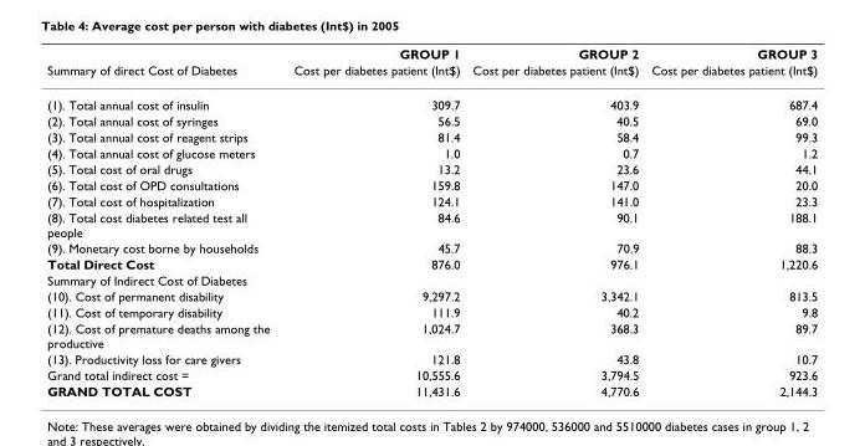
<table><thead><tr><td rowspan="2">Summary of direct Cost of Diabetes</td><td rowspan="2">GROUP 1 Cost per diabetes patient (Int$)</td><td rowspan="2">GROUP 2 Cost per diabetes patient (Int$)</td><td rowspan="2">GROUP 3 Cost per diabetes patient (Int$)</td></tr><tr></tr></thead><tbody><tr><td>(1). Total annual cost of insulin</td><td>309.7</td><td>403.9</td><td>687.4</td></tr><tr><td>(2). Total annual cost of syringes</td><td>56.5</td><td>40.5</td><td>69.0</td></tr><tr><td>(3). Total annual cost of reagent strips</td><td>81.4</td><td>58.4</td><td>99.3</td></tr><tr><td>(4). Total annual cost of glucose meters</td><td>1.0</td><td>0.7</td><td>1.2</td></tr><tr><td>(5). Total cost of oral drugs</td><td>13.2</td><td>23.6</td><td>44.1</td></tr><tr><td>(6). Total cost of OPD consultations</td><td>159.8</td><td>147.0</td><td>20.0</td></tr><tr><td>(7). Total cost of hospitalization</td><td>124.1</td><td>141.0</td><td>23.3</td></tr><tr><td>(8). Total cost diabetes related test all people</td><td>84.6</td><td>90.1</td><td>188.1</td></tr><tr><td>(9). Monetary cost borne by households</td><td>45.7</td><td>70.9</td><td>88.3</td></tr><tr><td>Total Direct Cost</td><td>876.0</td><td>976.1</td><td>1,220.6</td></tr><tr><td colspan="4">Summary of Indirect Cost of Diabetes</td></tr><tr><td>(10). Cost of permanent disability</td><td>9,297.2</td><td>3,342.1</td><td>813.5</td></tr><tr><td>(11). Cost of temporary disability</td><td>111.9</td><td>40.2</td><td>9.8</td></tr><tr><td>(12). Cost of premature deaths among the productive</td><td>1,024.7</td><td>368.3</td><td>89.7</td></tr><tr><td>(13). Productivity loss for care givers</td><td>121.8</td><td>43.8</td><td>10.7</td></tr><tr><td>Grand total indirect cost =</td><td>10,555.6</td><td>3,794.5</td><td>923.6</td></tr><tr><td>GRAND TOTAL COST</td><td>11,431.6</td><td>4,770.6</td><td>2,144.3</td></tr></tbody></table>